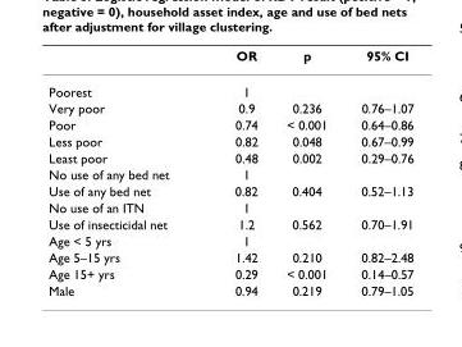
<table><thead><tr><td></td><td>OR</td><td>p</td><td>95% CI</td></tr></thead><tbody><tr><td>Poorest</td><td>1</td><td></td><td></td></tr><tr><td>Very poor</td><td>0.9</td><td>0.236</td><td>0.76–1.07</td></tr><tr><td>Poor</td><td>0.74</td><td>&lt; 0.001</td><td>0.64–0.86</td></tr><tr><td>Less poor</td><td>0.82</td><td>0.048</td><td>0.67–0.99</td></tr><tr><td>Least poor</td><td>0.48</td><td>0.002</td><td>0.29–0.76</td></tr><tr><td>No use of any bed net</td><td>1</td><td></td><td></td></tr><tr><td>Use of any bed net</td><td>0.82</td><td>0.404</td><td>0.52–1.13</td></tr><tr><td>No use of an ITN</td><td>1</td><td></td><td></td></tr><tr><td>Use of insecticidal net</td><td>1.2</td><td>0.562</td><td>0.70–1.91</td></tr><tr><td>Age &lt; 5 yrs</td><td>1</td><td></td><td></td></tr><tr><td>Age 5–15 yrs</td><td>1.42</td><td>0.210</td><td>0.82–2.48</td></tr><tr><td>Age 15+ yrs</td><td>0.29</td><td>&lt; 0.001</td><td>0.14–0.57</td></tr><tr><td>Male</td><td>0.94</td><td>0.219</td><td>0.79–1.05</td></tr></tbody></table>